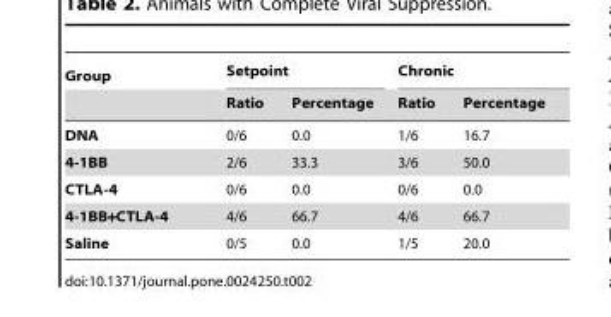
<table><thead><tr><td rowspan="2">Group</td><td colspan="2">Setpoint</td><td colspan="2">Chronic</td></tr><tr><td>Ratio</td><td>Percentage</td><td>Ratio</td><td>Percentage</td></tr></thead><tbody><tr><td>DNA</td><td>0/6</td><td>0.0</td><td>1/6</td><td>16.7</td></tr><tr><td>4-1BB</td><td>2/6</td><td>33.3</td><td>3/6</td><td>50.0</td></tr><tr><td>CTLA-4</td><td>0/6</td><td>0.0</td><td>0/6</td><td>0.0</td></tr><tr><td>4-1BB+CTLA-4</td><td>4/6</td><td>66.7</td><td>4/6</td><td>66.7</td></tr><tr><td>Saline</td><td>0/5</td><td>0.0</td><td>1/5</td><td>20.0</td></tr></tbody></table>